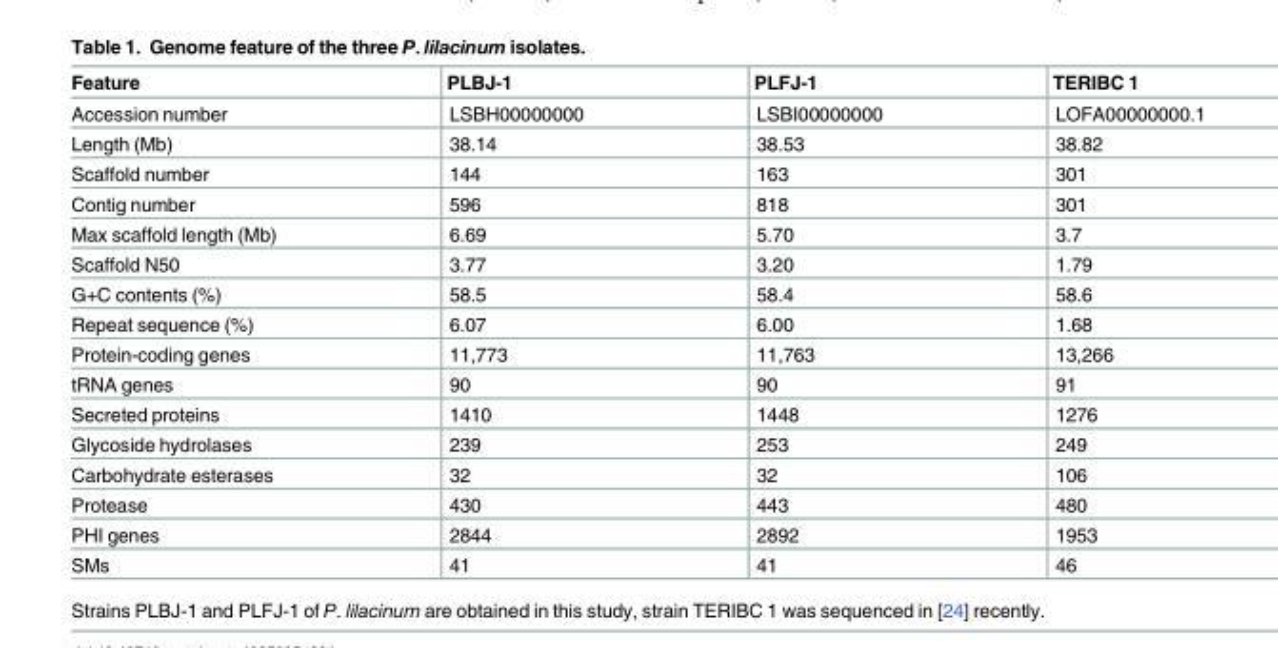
<table><thead><tr><td>Feature</td><td>PLBJ-1</td><td>PLFJ-1</td><td>TERIBC 1</td></tr></thead><tbody><tr><td>Accession number</td><td>LSBH00000000</td><td>LSBI00000000</td><td>LOFA00000000.1</td></tr><tr><td>Length (Mb)</td><td>38.14</td><td>38.53</td><td>38.82</td></tr><tr><td>Scaffold number</td><td>144</td><td>163</td><td>301</td></tr><tr><td>Contig number</td><td>596</td><td>818</td><td>301</td></tr><tr><td>Max scaffold length (Mb)</td><td>6.69</td><td>5.70</td><td>3.7</td></tr><tr><td>Scaffold N50</td><td>3.77</td><td>3.20</td><td>1.79</td></tr><tr><td>G+C contents (%)</td><td>58.5</td><td>58.4</td><td>58.6</td></tr><tr><td>Repeat sequence (%)</td><td>6.07</td><td>6.00</td><td>1.68</td></tr><tr><td>Protein-coding genes</td><td>11,773</td><td>11,763</td><td>13,266</td></tr><tr><td>tRNA genes</td><td>90</td><td>90</td><td>91</td></tr><tr><td>Secreted proteins</td><td>1410</td><td>1448</td><td>1276</td></tr><tr><td>Glycoside hydrolases</td><td>239</td><td>253</td><td>249</td></tr><tr><td>Carbohydrate esterases</td><td>32</td><td>32</td><td>106</td></tr><tr><td>Protease</td><td>430</td><td>443</td><td>480</td></tr><tr><td>PHI genes</td><td>2844</td><td>2892</td><td>1953</td></tr><tr><td>SMs</td><td>41</td><td>41</td><td>46</td></tr></tbody></table>